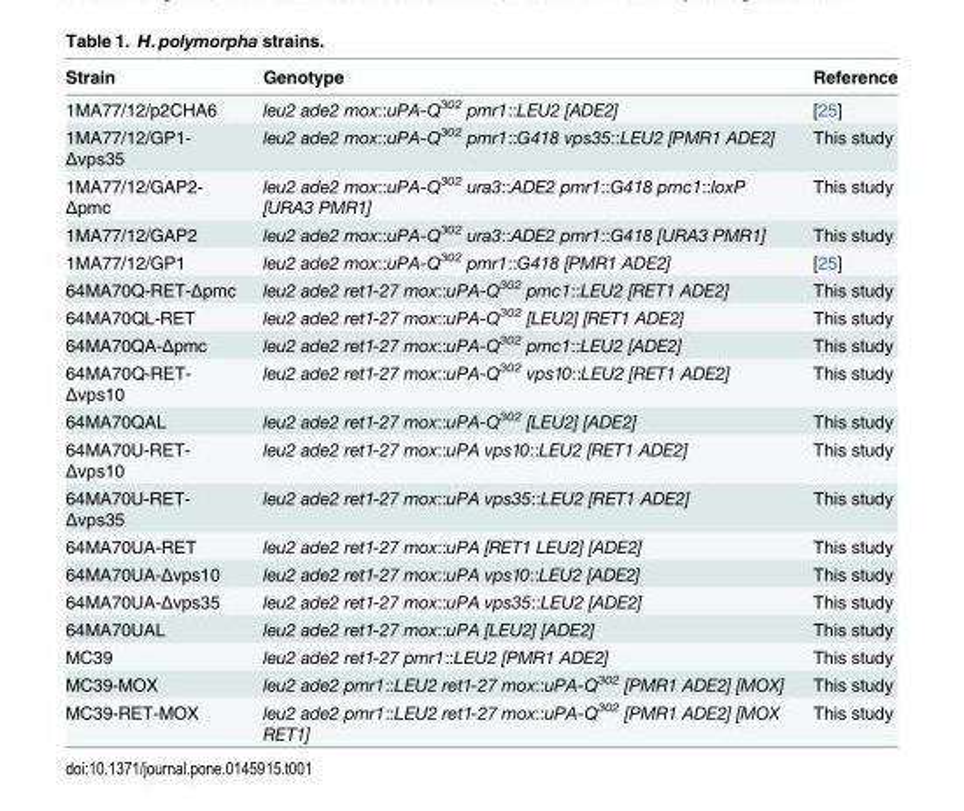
<table><thead><tr><td>Strain</td><td>Genotype</td><td>Reference</td></tr></thead><tbody><tr><td>1MA77/12/p2CHA6</td><td>leu2 ade2 mox::uPA-Q<sup>302</sup> pmr1::LEU2 [ADE2]</td><td>[25]</td></tr><tr><td>1MA77/12/GP1- Δvps35</td><td>leu2 ade2 mox::uPA-Q<sup>302</sup> pmr1::G418 vps35::LEU2 [PMR1 ADE2]</td><td>This study</td></tr><tr><td>1MA77/12/GAP2- Δpmc</td><td>leu2 ade2 mox::uPA-Q<sup>302</sup> ura3::ADE2 pmr1::G418 pmc1::loxP [URA3 PMR1]</td><td>This study</td></tr><tr><td>1MA77/12/GAP2</td><td>leu2 ade2 mox::uPA-Q<sup>302</sup> ura3::ADE2 pmr1::G418 [URA3 PMR1]</td><td>This study</td></tr><tr><td>1MA77/12/GP1</td><td>leu2 ade2 mox::uPA-Q<sup>302</sup> pmr1::G418 [PMR1 ADE2]</td><td>[25]</td></tr><tr><td>64MA70Q-RET-Δpmc</td><td>leu2 ade2 ret1-27 mox::uPA-Q<sup>302</sup> pmc1::LEU2 [RET1 ADE2]</td><td>This study</td></tr><tr><td>64MA70QL-RET</td><td>leu2 ade2 ret1-27 mox::uPA-Q<sup>302</sup> [LEU2] [RET1 ADE2]</td><td>This study</td></tr><tr><td>64MA70QA-Δpmc</td><td>leu2 ade2 ret1-27 mox::uPA-Q<sup>302</sup> pmc1::LEU2 [ADE2]</td><td>This study</td></tr><tr><td>64MA70Q-RET- Δvps10</td><td>leu2 ade2 ret1-27 mox::uPA-Q<sup>302</sup> vps10::LEU2 [RET1 ADE2]</td><td>This study</td></tr><tr><td>64MA70QAL</td><td>leu2 ade2 ret1-27 mox::uPA-Q<sup>302</sup> [LEU2] [ADE2]</td><td>This study</td></tr><tr><td>64MA70U-RET- Δvps10</td><td>leu2 ade2 ret1-27 mox::uPA vps10::LEU2 [RET1 ADE2]</td><td>This study</td></tr><tr><td>64MA70U-RET- Δvps35</td><td>leu2 ade2 ret1-27 mox::uPA vps35::LEU2 [RET1 ADE2]</td><td>This study</td></tr><tr><td>64MA70UA-RET</td><td>leu2 ade2 ret1-27 mox::uPA [RET1 LEU2] [ADE2]</td><td>This study</td></tr><tr><td>64MA70UA-Δvps10</td><td>leu2 ade2 ret1-27 mox::uPA vps10::LEU2 [ADE2]</td><td>This study</td></tr><tr><td>64MA70UA-Δvps35</td><td>leu2 ade2 ret1-27 mox::uPA vps35::LEU2 [ADE2]</td><td>This study</td></tr><tr><td>64MA70UAL</td><td>leu2 ade2 ret1-27 mox::uPA [LEU2] [ADE2]</td><td>This study</td></tr><tr><td>MC39</td><td>leu2 ade2 ret1-27 pmr1::LEU2 [PMR1 ADE2]</td><td>This study</td></tr><tr><td>MC39-MOX</td><td>leu2 ade2 pmr1::LEU2 ret1-27 mox::uPA-Q<sup>302</sup> [PMR1 ADE2] [MOX]</td><td>This study</td></tr><tr><td>MC39-RET-MOX</td><td>leu2 ade2 pmr1::LEU2 ret1-27 mox::uPA-Q<sup>302</sup> [PMR1 ADE2] [MOX RET1]</td><td>This study</td></tr></tbody></table>